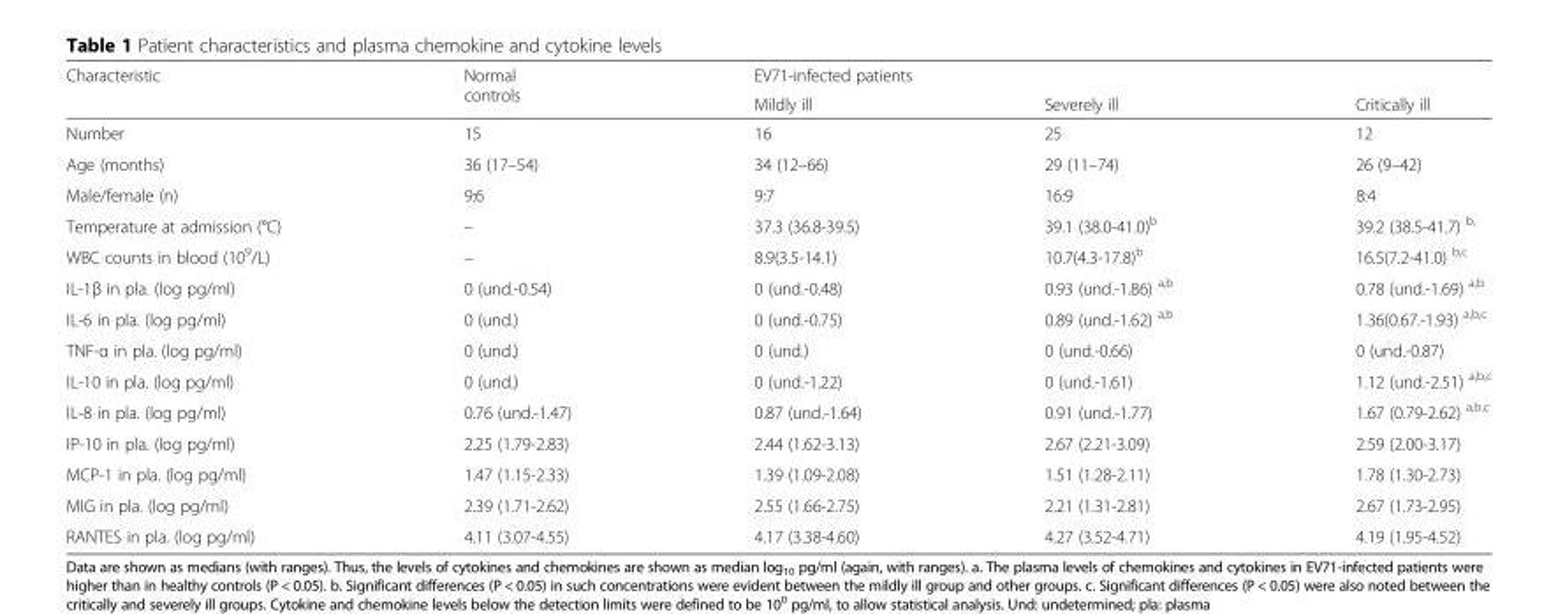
<table><thead><tr><td rowspan="2">Characteristic</td><td rowspan="2">Normal controls</td><td colspan="3">EV71-infected patients</td></tr><tr><td>Mildly ill</td><td>Severely ill</td><td>Critically ill</td></tr></thead><tbody><tr><td>Number</td><td>15</td><td>16</td><td>25</td><td>12</td></tr><tr><td>Age (months)</td><td>36 (17–54)</td><td>34 (12–66)</td><td>29 (11–74)</td><td>26 (9–42)</td></tr><tr><td>Male/female (n)</td><td>9:6</td><td>9:7</td><td>16:9</td><td>8:4</td></tr><tr><td>Temperature at admission (°C)</td><td>–</td><td>37.3 (36.8-39.5)</td><td>39.1 (38.0-41.0)<sup>b</sup></td><td>39.2 (38.5-41.7) <sup>b,</sup></td></tr><tr><td>WBC counts in blood (10<sup>9</sup>/L)</td><td>–</td><td>8.9(3.5-14.1)</td><td>10.7(4.3-17.8)<sup>b</sup></td><td>16.5(7.2-41.0) <sup>b,c</sup></td></tr><tr><td>IL-1β in pla. (log pg/ml)</td><td>0 (und.-0.54)</td><td>0 (und.-0.48)</td><td>0.93 (und.-1.86) <sup>a,b</sup></td><td>0.78 (und.-1.69) <sup>a,b</sup></td></tr><tr><td>IL-6 in pla. (log pg/ml)</td><td>0 (und.)</td><td>0 (und.-0.75)</td><td>0.89 (und.-1.62) <sup>a,b</sup></td><td>1.36(0.67.-1.93) <sup>a,b,c</sup></td></tr><tr><td>TNF-α in pla. (log pg/ml)</td><td>0 (und.)</td><td>0 (und.)</td><td>0 (und.-0.66)</td><td>0 (und.-0.87)</td></tr><tr><td>IL-10 in pla. (log pg/ml)</td><td>0 (und.)</td><td>0 (und.-1.22)</td><td>0 (und.-1.61)</td><td>1.12 (und.-2.51) <sup>a,b,c</sup></td></tr><tr><td>IL-8 in pla. (log pg/ml)</td><td>0.76 (und.-1.47)</td><td>0.87 (und.-1.64)</td><td>0.91 (und.-1.77)</td><td>1.67 (0.79-2.62) <sup>a,b,c</sup></td></tr><tr><td>IP-10 in pla. (log pg/ml)</td><td>2.25 (1.79-2.83)</td><td>2.44 (1.62-3.13)</td><td>2.67 (2.21-3.09)</td><td>2.59 (2.00-3.17)</td></tr><tr><td>MCP-1 in pla. (log pg/ml)</td><td>1.47 (1.15-2.33)</td><td>1.39 (1.09-2.08)</td><td>1.51 (1.28-2.11)</td><td>1.78 (1.30-2.73)</td></tr><tr><td>MIG in pla. (log pg/ml)</td><td>2.39 (1.71-2.62)</td><td>2.55 (1.66-2.75)</td><td>2.21 (1.31-2.81)</td><td>2.67 (1.73-2.95)</td></tr><tr><td>RANTES in pla. (log pg/ml)</td><td>4.11 (3.07-4.55)</td><td>4.17 (3.38-4.60)</td><td>4.27 (3.52-4.71)</td><td>4.19 (1.95-4.52)</td></tr></tbody></table>